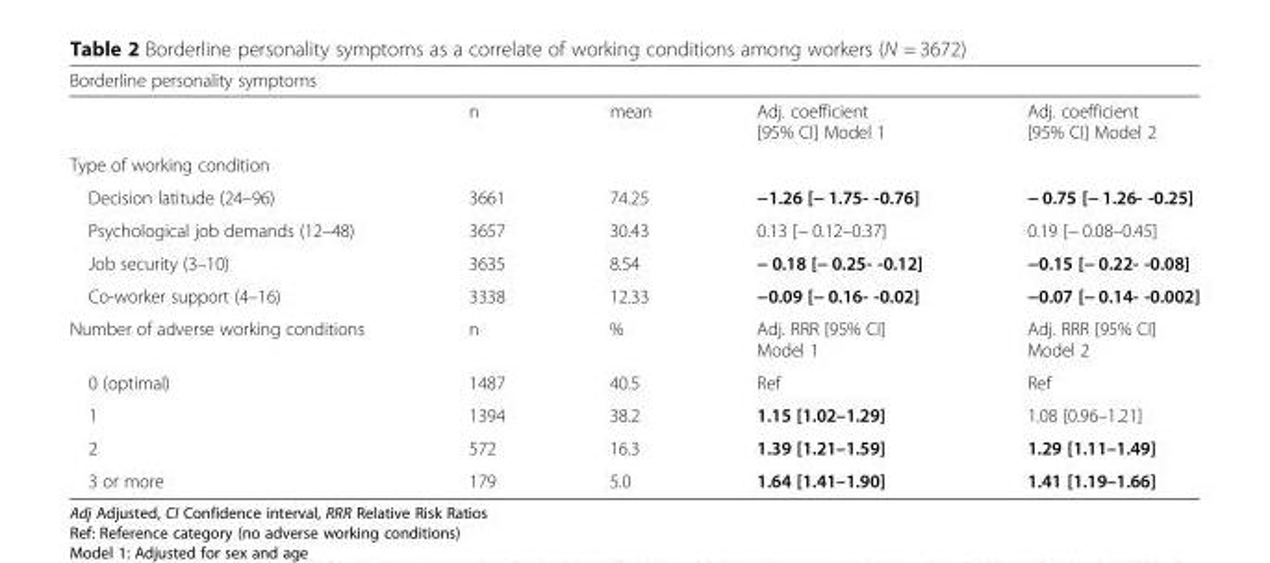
<table><thead><tr><td colspan="5">Borderline personality symptoms</td></tr><tr><td></td><td>n</td><td>mean</td><td>Adj. coefficient [95% CI] Model 1</td><td>Adj. coefficient [95% CI] Model 2</td></tr></thead><tbody><tr><td colspan="5">Type of working condition</td></tr><tr><td>Decision latitude (24–96)</td><td>3661</td><td>74.25</td><td>−1.26 [− 1.75- -0.76]</td><td>− 0.75 [− 1.26- -0.25]</td></tr><tr><td>Psychological job demands (12–48)</td><td>3657</td><td>30.43</td><td>0.13 [− 0.12–0.37]</td><td>0.19 [− 0.08–0.45]</td></tr><tr><td>Job security (3–10)</td><td>3635</td><td>8.54</td><td>− 0.18 [− 0.25- -0.12]</td><td>−0.15 [− 0.22- -0.08]</td></tr><tr><td>Co-worker support (4–16)</td><td>3338</td><td>12.33</td><td>−0.09 [− 0.16- -0.02]</td><td>−0.07 [− 0.14- -0.002]</td></tr><tr><td>Number of adverse working conditions</td><td>n</td><td>%</td><td>Adj. RRR [95% CI] Model 1</td><td>Adj. RRR [95% CI] Model 2</td></tr><tr><td>0 (optimal)</td><td>1487</td><td>40.5</td><td>Ref</td><td>Ref</td></tr><tr><td>1</td><td>1394</td><td>38.2</td><td>1.15 [1.02–1.29]</td><td>1.08 [0.96–1.21]</td></tr><tr><td>2</td><td>572</td><td>16.3</td><td>1.39 [1.21–1.59]</td><td>1.29 [1.11–1.49]</td></tr><tr><td>3 or more</td><td>179</td><td>5.0</td><td>1.64 [1.41–1.90]</td><td>1.41 [1.19–1.66]</td></tr></tbody></table>